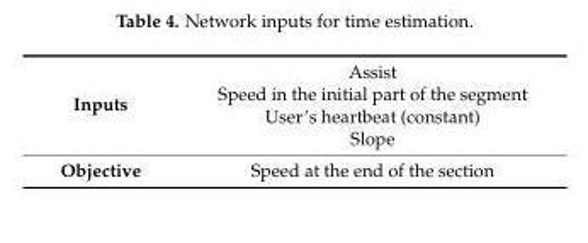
<table><tbody><tr><td rowspan="4">Inputs</td><td>Assist</td></tr><tr><td>Speed in the initial part of the segment</td></tr><tr><td>User’s heartbeat (constant)</td></tr><tr><td>Slope</td></tr><tr><td>Objective</td><td>Speed at the end of the section</td></tr></tbody></table>